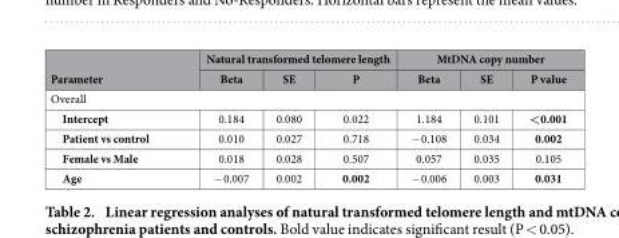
<table><thead><tr><td rowspan="2">Parameter</td><td colspan="3">Natural transformed telomere length</td><td colspan="3">MtDNA copy number</td></tr><tr><td>Beta</td><td>SE</td><td>P</td><td>Beta</td><td>SE</td><td>P value</td></tr></thead><tbody><tr><td colspan="7">Overall</td></tr><tr><td>Intercept</td><td>0.184</td><td>0.080</td><td>0.022</td><td>1.184</td><td>0.101</td><td>&lt;0.001</td></tr><tr><td>Patient vs control</td><td>0.010</td><td>0.027</td><td>0.718</td><td>− 0.108</td><td>0.034</td><td>0.002</td></tr><tr><td>Female vs Male</td><td>0.018</td><td>0.028</td><td>0.507</td><td>0.057</td><td>0.035</td><td>0.105</td></tr><tr><td>Age</td><td>− 0.007</td><td>0.002</td><td>0.002</td><td>− 0.006</td><td>0.003</td><td>0.031</td></tr></tbody></table>